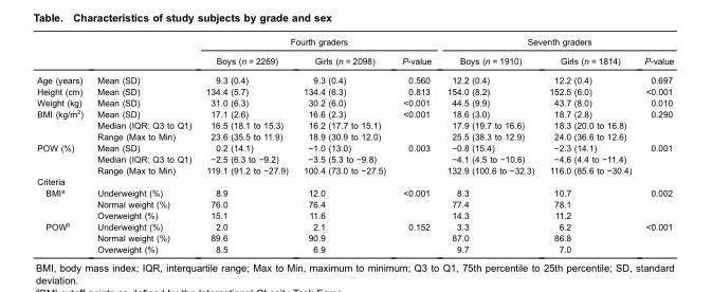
<table><thead><tr><td rowspan="2"></td><td rowspan="2"></td><td colspan="3">Fourth graders</td><td colspan="3">Seventh graders</td></tr><tr><td>Boys (n = 2269)</td><td>Girls (n = 2098)</td><td>P-value</td><td>Boys (n = 1910)</td><td>Girls (n = 1814)</td><td>P-value</td></tr></thead><tbody><tr><td>Age (years)</td><td>Mean (SD)</td><td>9.3 (0.4)</td><td>9.3 (0.4)</td><td>0.560</td><td>12.2 (0.4)</td><td>12.2 (0.4)</td><td>0.697</td></tr><tr><td>Height (cm)</td><td>Mean (SD)</td><td>134.4 (5.7)</td><td>134.4 (6.3)</td><td>0.813</td><td>154.0 (8.2)</td><td>152.5 (6.0)</td><td>&lt;0.001</td></tr><tr><td>Weight (kg)</td><td>Mean (SD)</td><td>31.0 (6.3)</td><td>30.2 (6.0)</td><td>&lt;0.001</td><td>44.5 (9.9)</td><td>43.7 (8.0)</td><td>0.010</td></tr><tr><td rowspan="3">BMI (kg/m<sup>2</sup>)</td><td>Mean (SD)</td><td>17.1 (2.6)</td><td>16.6 (2.3)</td><td>&lt;0.001</td><td>18.6 (3.0)</td><td>18.7 (2.8)</td><td>0.290</td></tr><tr><td>Median (IQR: Q3 to Q1)</td><td>16.5 (18.1 to 15.3)</td><td>16.2 (17.7 to 15.1)</td><td></td><td>17.9 (19.7 to 16.6)</td><td>18.3 (20.0 to 16.8)</td><td></td></tr><tr><td>Range (Max to Min)</td><td>23.6 (35.5 to 11.9)</td><td>18.9 (30.9 to 12.0)</td><td></td><td>25.5 (38.3 to 12.9)</td><td>24.0 (36.6 to 12.6)</td><td></td></tr><tr><td rowspan="3">POW (%)</td><td>Mean (SD)</td><td>0.2 (14.1)</td><td>−1.0 (13.0)</td><td>0.003</td><td>−0.8 (15.4)</td><td>−2.3 (14.1)</td><td>0.001</td></tr><tr><td>Median (IQR: Q3 to Q1)</td><td>−2.5 (6.3 to −9.2)</td><td>−3.5 (5.3 to −9.8)</td><td></td><td>−4.1 (4.5 to −10.6)</td><td>−4.6 (4.4 to −11.4)</td><td></td></tr><tr><td>Range (Max to Min)</td><td>119.1 (91.2 to −27.9)</td><td>100.4 (73.0 to −27.5)</td><td></td><td>132.9 (100.6 to −32.3)</td><td>116.0 (85.6 to −30.4)</td><td></td></tr><tr><td colspan="8">Criteria</td></tr><tr><td rowspan="3">BMI<sup>a</sup></td><td>Underweight (%)</td><td>8.9</td><td>12.0</td><td>&lt;0.001</td><td>8.3</td><td>10.7</td><td>0.002</td></tr><tr><td>Normal weight (%)</td><td>76.0</td><td>76.4</td><td></td><td>77.4</td><td>78.1</td><td></td></tr><tr><td>Overweight (%)</td><td>15.1</td><td>11.6</td><td></td><td>14.3</td><td>11.2</td><td></td></tr><tr><td rowspan="3">POW<sup>b</sup></td><td>Underweight (%)</td><td>2.0</td><td>2.1</td><td>0.152</td><td>3.3</td><td>6.2</td><td>&lt;0.001</td></tr><tr><td>Normal weight (%)</td><td>89.6</td><td>90.9</td><td></td><td>87.0</td><td>86.8</td><td></td></tr><tr><td>Overweight (%)</td><td>8.5</td><td>6.9</td><td></td><td>9.7</td><td>7.0</td><td></td></tr></tbody></table>